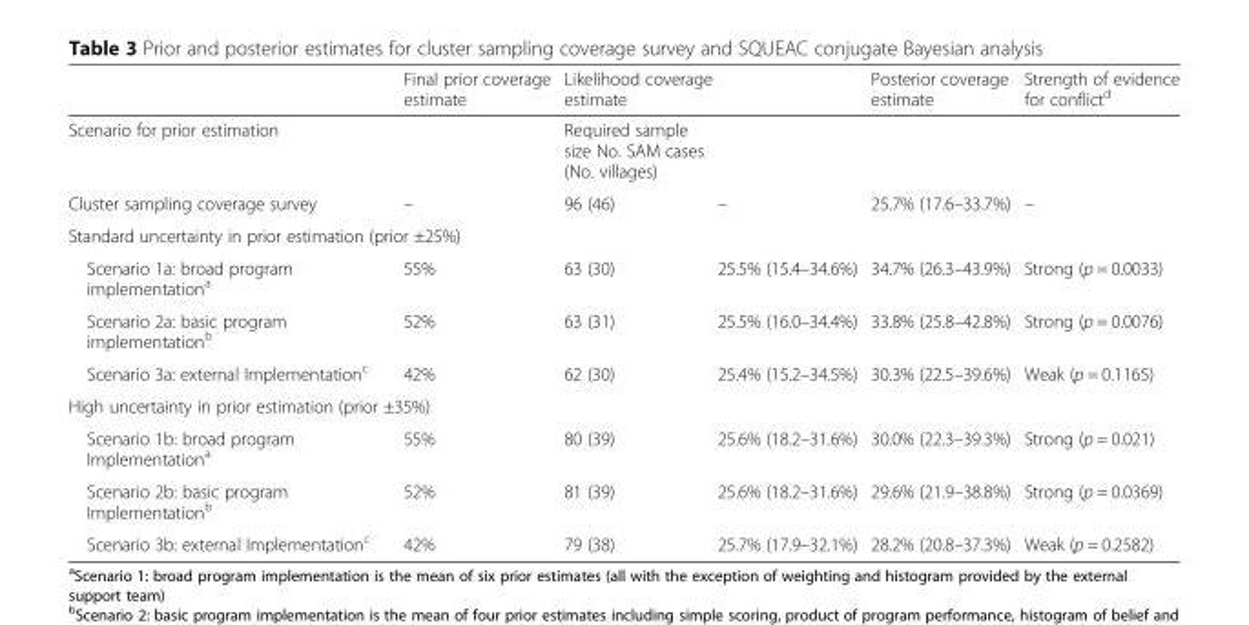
<table><thead><tr><td rowspan="2">Scenario for prior estimation</td><td rowspan="2">Final prior coverage estimate</td><td colspan="2">Likelihood coverage estimate</td><td rowspan="2">Posterior coverage estimate</td><td rowspan="2">Strength of evidence for conflict<sup>d</sup></td></tr><tr><td>Required sample size No. SAM cases (No. villages)</td><td></td></tr></thead><tbody><tr><td>Cluster sampling coverage survey</td><td>–</td><td>96 (46)</td><td>–</td><td>25.7% (17.6–33.7%)</td><td>–</td></tr><tr><td colspan="6">Standard uncertainty in prior estimation (prior ±25%)</td></tr><tr><td>Scenario 1a: broad program implementation<sup>a</sup></td><td>55%</td><td>63 (30)</td><td>25.5% (15.4–34.6%)</td><td>34.7% (26.3–43.9%)</td><td>Strong (p = 0.0033)</td></tr><tr><td>Scenario 2a: basic program implementation<sup>b</sup></td><td>52%</td><td>63 (31)</td><td>25.5% (16.0–34.4%)</td><td>33.8% (25.8–42.8%)</td><td>Strong (p = 0.0076)</td></tr><tr><td>Scenario 3a: external Implementation<sup>c</sup></td><td>42%</td><td>62 (30)</td><td>25.4% (15.2–34.5%)</td><td>30.3% (22.5–39.6%)</td><td>Weak (p = 0.1165)</td></tr><tr><td colspan="6">High uncertainty in prior estimation (prior ±35%)</td></tr><tr><td>Scenario 1b: broad program Implementation<sup>a</sup></td><td>55%</td><td>80 (39)</td><td>25.6% (18.2–31.6%)</td><td>30.0% (22.3–39.3%)</td><td>Strong (p = 0.021)</td></tr><tr><td>Scenario 2b: basic program Implementation<sup>b</sup></td><td>52%</td><td>81 (39)</td><td>25.6% (18.2–31.6%)</td><td>29.6% (21.9–38.8%)</td><td>Strong (p = 0.0369)</td></tr><tr><td>Scenario 3b: external Implementation<sup>c</sup></td><td>42%</td><td>79 (38)</td><td>25.7% (17.9–32.1%)</td><td>28.2% (20.8–37.3%)</td><td>Weak (p = 0.2582)</td></tr></tbody></table>